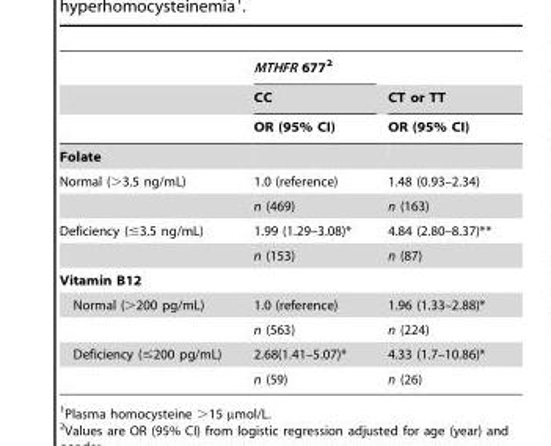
<table><thead><tr><td rowspan="3"></td><td rowspan="3">MTHFR 677<sup>2</sup> CC OR (95% CI)</td><td rowspan="3">CT or TT OR (95% CI)</td></tr><tr></tr><tr></tr></thead><tbody><tr><td colspan="3">Folate</td></tr><tr><td rowspan="2">Normal (&gt;3.5 ng/mL)</td><td>1.0 (reference)</td><td>1.48 (0.93–2.34)</td></tr><tr><td>n (469)</td><td>n (163)</td></tr><tr><td rowspan="2">Deficiency (≤3.5 ng/mL)</td><td>1.99 (1.29–3.08)*</td><td>4.84 (2.80–8.37)**</td></tr><tr><td>n (153)</td><td>n (87)</td></tr><tr><td colspan="3">Vitamin B12</td></tr><tr><td rowspan="2">Normal (&gt;200 pg/mL)</td><td>1.0 (reference)</td><td>1.96 (1.33–2.88)*</td></tr><tr><td>n (563)</td><td>n (224)</td></tr><tr><td rowspan="2">Deficiency (≤200 pg/mL)</td><td>2.68(1.41–5.07)*</td><td>4.33 (1.7–10.86)*</td></tr><tr><td>n (59)</td><td>n (26)</td></tr></tbody></table>